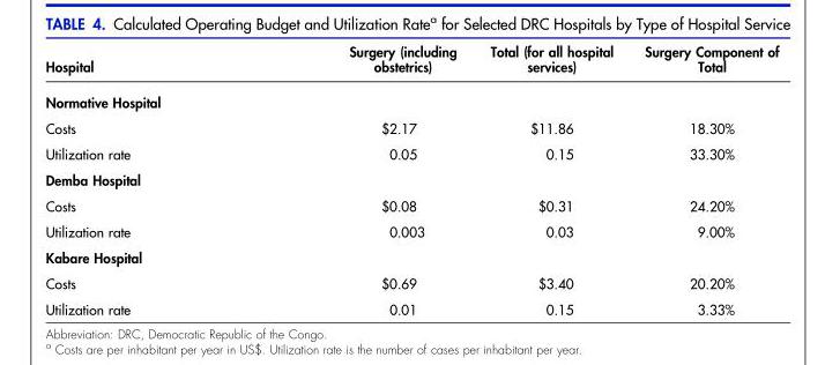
<table><thead><tr><td>Hospital</td><td>Surgery (including obstetrics)</td><td>Total (for all hospital services)</td><td>Surgery Component of Total</td></tr></thead><tbody><tr><td colspan="4">Normative Hospital</td></tr><tr><td>Costs</td><td>$2.17</td><td>$11.86</td><td>18.30%</td></tr><tr><td>Utilization rate</td><td>0.05</td><td>0.15</td><td>33.30%</td></tr><tr><td colspan="4">Demba Hospital</td></tr><tr><td>Costs</td><td>$0.08</td><td>$0.31</td><td>24.20%</td></tr><tr><td>Utilization rate</td><td>0.003</td><td>0.03</td><td>9.00%</td></tr><tr><td colspan="4">Kabare Hospital</td></tr><tr><td>Costs</td><td>$0.69</td><td>$3.40</td><td>20.20%</td></tr><tr><td>Utilization rate</td><td>0.01</td><td>0.15</td><td>3.33%</td></tr></tbody></table>